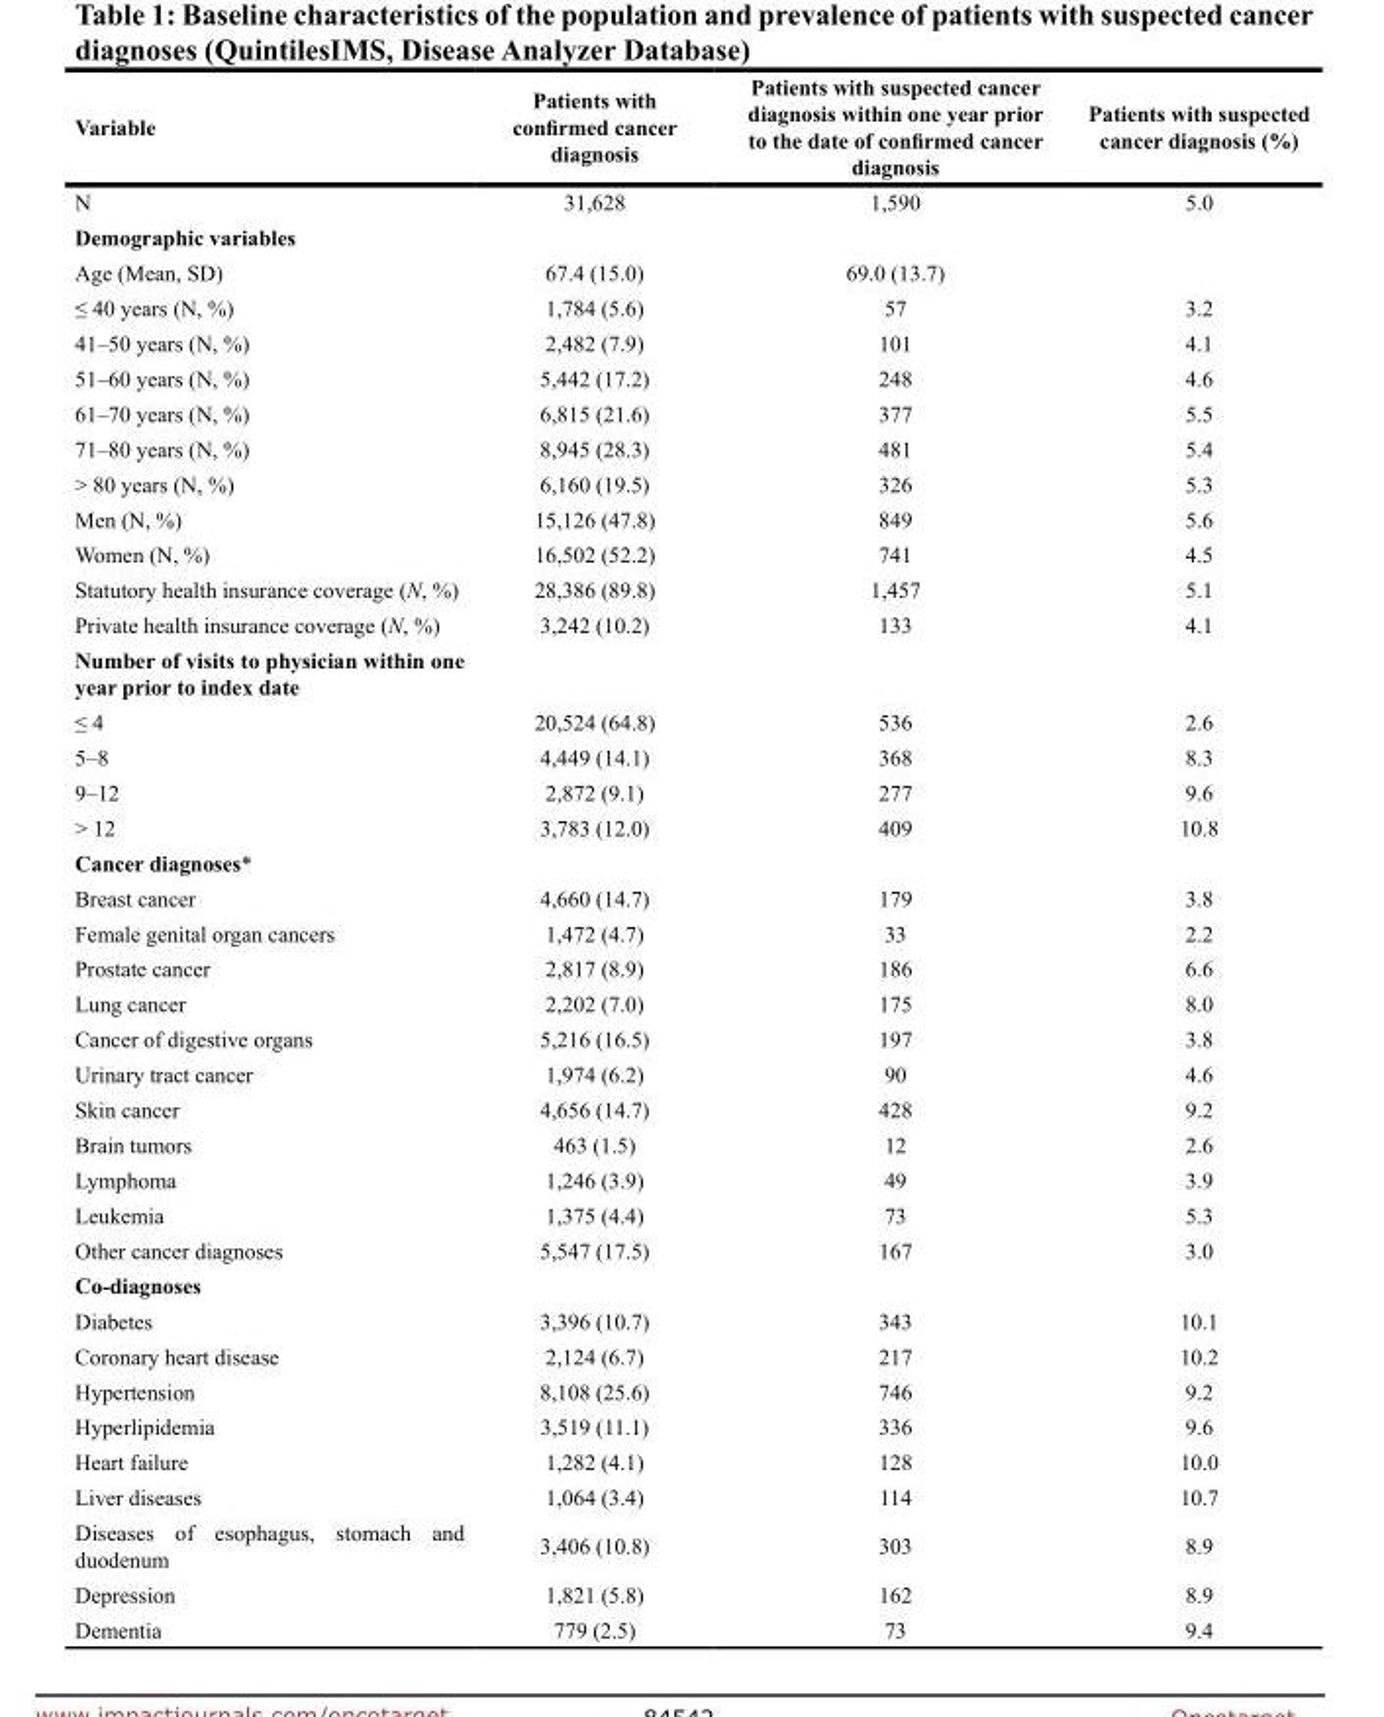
<table><thead><tr><td>Variable</td><td>Patients with confirmed cancer diagnosis</td><td>Patients with suspected cancer diagnosis within one year prior to the date of confirmed cancer diagnosis</td><td>Patients with suspected cancer diagnosis (%)</td></tr></thead><tbody><tr><td>N</td><td>31,628</td><td>1,590</td><td>5.0</td></tr><tr><td colspan="4">Demographic variables</td></tr><tr><td>Age (Mean, SD)</td><td>67.4 (15.0)</td><td>69.0 (13.7)</td><td></td></tr><tr><td>≤ 40 years (N, %)</td><td>1,784 (5.6)</td><td>57</td><td>3.2</td></tr><tr><td>41–50 years (N, %)</td><td>2,482 (7.9)</td><td>101</td><td>4.1</td></tr><tr><td>51–60 years (N, %)</td><td>5,442 (17.2)</td><td>248</td><td>4.6</td></tr><tr><td>61–70 years (N, %)</td><td>6,815 (21.6)</td><td>377</td><td>5.5</td></tr><tr><td>71–80 years (N, %)</td><td>8,945 (28.3)</td><td>481</td><td>5.4</td></tr><tr><td>&gt; 80 years (N, %)</td><td>6,160 (19.5)</td><td>326</td><td>5.3</td></tr><tr><td>Men (N, %)</td><td>15,126 (47.8)</td><td>849</td><td>5.6</td></tr><tr><td>Women (N, %)</td><td>16,502 (52.2)</td><td>741</td><td>4.5</td></tr><tr><td>Statutory health insurance coverage (N, %)</td><td>28,386 (89.8)</td><td>1,457</td><td>5.1</td></tr><tr><td>Private health insurance coverage (N, %)</td><td>3,242 (10.2)</td><td>133</td><td>4.1</td></tr><tr><td colspan="4">Number of visits to physician within one year prior to index date</td></tr><tr><td>≤ 4</td><td>20,524 (64.8)</td><td>536</td><td>2.6</td></tr><tr><td>5–8</td><td>4,449 (14.1)</td><td>368</td><td>8.3</td></tr><tr><td>9–12</td><td>2,872 (9.1)</td><td>277</td><td>9.6</td></tr><tr><td>&gt; 12</td><td>3,783 (12.0)</td><td>409</td><td>10.8</td></tr><tr><td colspan="4">Cancer diagnoses*</td></tr><tr><td>Breast cancer</td><td>4,660 (14.7)</td><td>179</td><td>3.8</td></tr><tr><td>Female genital organ cancers</td><td>1,472 (4.7)</td><td>33</td><td>2.2</td></tr><tr><td>Prostate cancer</td><td>2,817 (8.9)</td><td>186</td><td>6.6</td></tr><tr><td>Lung cancer</td><td>2,202 (7.0)</td><td>175</td><td>8.0</td></tr><tr><td>Cancer of digestive organs</td><td>5,216 (16.5)</td><td>197</td><td>3.8</td></tr><tr><td>Urinary tract cancer</td><td>1,974 (6.2)</td><td>90</td><td>4.6</td></tr><tr><td>Skin cancer</td><td>4,656 (14.7)</td><td>428</td><td>9.2</td></tr><tr><td>Brain tumors</td><td>463 (1.5)</td><td>12</td><td>2.6</td></tr><tr><td>Lymphoma</td><td>1,246 (3.9)</td><td>49</td><td>3.9</td></tr><tr><td>Leukemia</td><td>1,375 (4.4)</td><td>73</td><td>5.3</td></tr><tr><td>Other cancer diagnoses</td><td>5,547 (17.5)</td><td>167</td><td>3.0</td></tr><tr><td colspan="4">Co-diagnoses</td></tr><tr><td>Diabetes</td><td>3,396 (10.7)</td><td>343</td><td>10.1</td></tr><tr><td>Coronary heart disease</td><td>2,124 (6.7)</td><td>217</td><td>10.2</td></tr><tr><td>Hypertension</td><td>8,108 (25.6)</td><td>746</td><td>9.2</td></tr><tr><td>Hyperlipidemia</td><td>3,519 (11.1)</td><td>336</td><td>9.6</td></tr><tr><td>Heart failure</td><td>1,282 (4.1)</td><td>128</td><td>10.0</td></tr><tr><td>Liver diseases</td><td>1,064 (3.4)</td><td>114</td><td>10.7</td></tr><tr><td>Diseases of esophagus, stomach and duodenum</td><td>3,406 (10.8)</td><td>303</td><td>8.9</td></tr><tr><td>Depression</td><td>1,821 (5.8)</td><td>162</td><td>8.9</td></tr><tr><td>Dementia</td><td>779 (2.5)</td><td>73</td><td>9.4</td></tr></tbody></table>